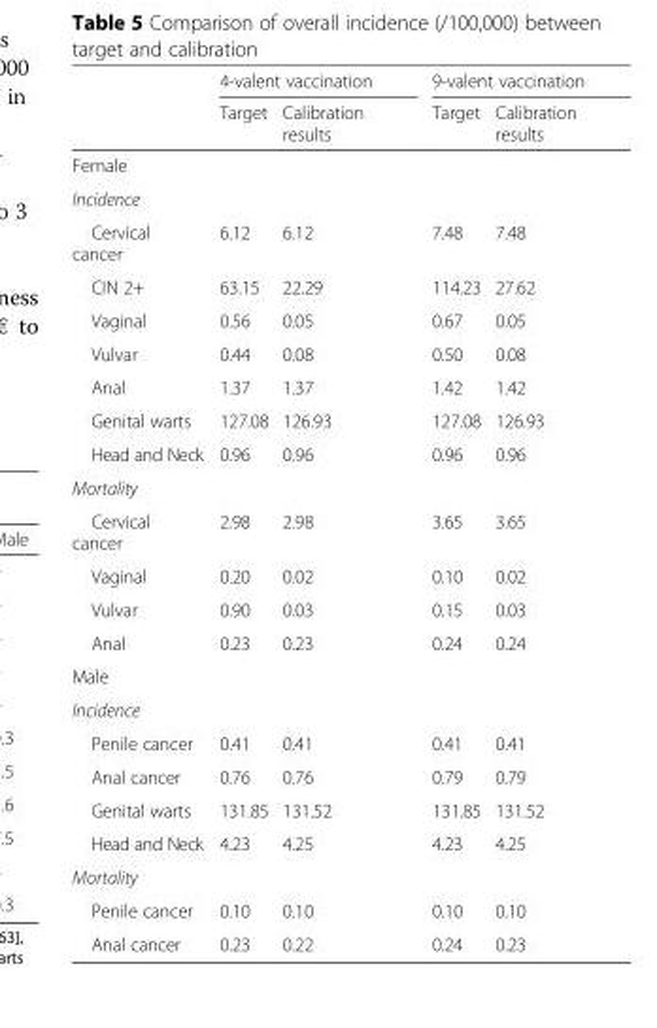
<table><thead><tr><td rowspan="2"></td><td colspan="2">4-valent vaccination</td><td colspan="2">9-valent vaccination</td></tr><tr><td>Target</td><td>Calibration results</td><td>Target</td><td>Calibration results</td></tr></thead><tbody><tr><td colspan="5">Female</td></tr><tr><td colspan="5">Incidence</td></tr><tr><td>Cervical cancer</td><td>6.12</td><td>6.12</td><td>7.48</td><td>7.48</td></tr><tr><td>CIN 2+</td><td>63.15</td><td>22.29</td><td>114.23</td><td>27.62</td></tr><tr><td>Vaginal</td><td>0.56</td><td>0.05</td><td>0.67</td><td>0.05</td></tr><tr><td>Vulvar</td><td>0.44</td><td>0.08</td><td>0.50</td><td>0.08</td></tr><tr><td>Anal</td><td>1.37</td><td>1.37</td><td>1.42</td><td>1.42</td></tr><tr><td>Genital warts</td><td>127.08</td><td>126.93</td><td>127.08</td><td>126.93</td></tr><tr><td>Head and Neck</td><td>0.96</td><td>0.96</td><td>0.96</td><td>0.96</td></tr><tr><td colspan="5">Mortality</td></tr><tr><td>Cervical cancer</td><td>2.98</td><td>2.98</td><td>3.65</td><td>3.65</td></tr><tr><td>Vaginal</td><td>0.20</td><td>0.02</td><td>0.10</td><td>0.02</td></tr><tr><td>Vulvar</td><td>0.90</td><td>0.03</td><td>0.15</td><td>0.03</td></tr><tr><td>Anal</td><td>0.23</td><td>0.23</td><td>0.24</td><td>0.24</td></tr><tr><td colspan="5">Male</td></tr><tr><td colspan="5">Incidence</td></tr><tr><td>Penile cancer</td><td>0.41</td><td>0.41</td><td>0.41</td><td>0.41</td></tr><tr><td>Anal cancer</td><td>0.76</td><td>0.76</td><td>0.79</td><td>0.79</td></tr><tr><td>Genital warts</td><td>131.85</td><td>131.52</td><td>131.85</td><td>131.52</td></tr><tr><td>Head and Neck</td><td>4.23</td><td>4.25</td><td>4.23</td><td>4.25</td></tr><tr><td colspan="5">Mortality</td></tr><tr><td>Penile cancer</td><td>0.10</td><td>0.10</td><td>0.10</td><td>0.10</td></tr><tr><td>Anal cancer</td><td>0.23</td><td>0.22</td><td>0.24</td><td>0.23</td></tr></tbody></table>